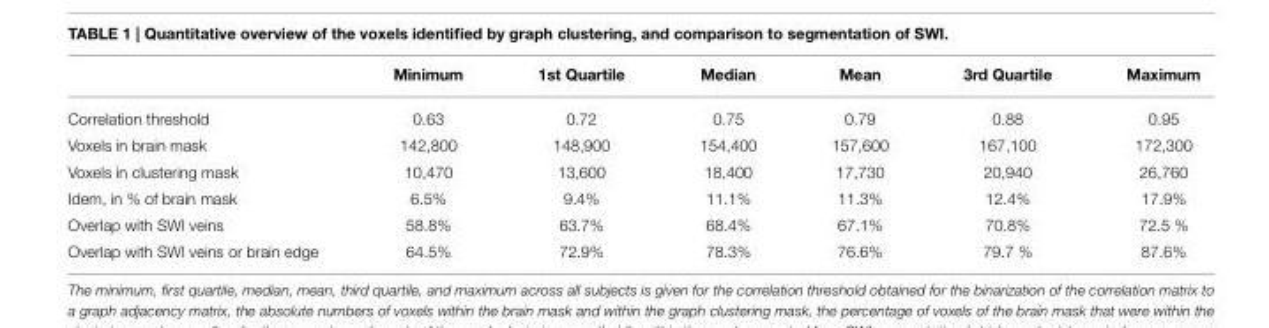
<table><thead><tr><td></td><td>Minimum</td><td>1st Quartile</td><td>Median</td><td>Mean</td><td>3rd Quartile</td><td>Maximum</td></tr></thead><tbody><tr><td>Correlation threshold</td><td>0.63</td><td>0.72</td><td>0.75</td><td>0.79</td><td>0.88</td><td>0.95</td></tr><tr><td>Voxels in brain mask</td><td>142,800</td><td>148,900</td><td>154,400</td><td>157,600</td><td>167,100</td><td>172,300</td></tr><tr><td>Voxels in clustering mask</td><td>10,470</td><td>13,600</td><td>18,400</td><td>17,730</td><td>20,940</td><td>26,760</td></tr><tr><td>Idem, in % of brain mask</td><td>6.5%</td><td>9.4%</td><td>11.1%</td><td>11.3%</td><td>12.4%</td><td>17.9%</td></tr><tr><td>Overlap with SWI veins</td><td>58.8%</td><td>63.7%</td><td>68.4%</td><td>67.1%</td><td>70.8%</td><td>72.5 %</td></tr><tr><td>Overlap with SWI veins or brain edge</td><td>64.5%</td><td>72.9%</td><td>78.3%</td><td>76.6%</td><td>79.7 %</td><td>87.6%</td></tr></tbody></table>